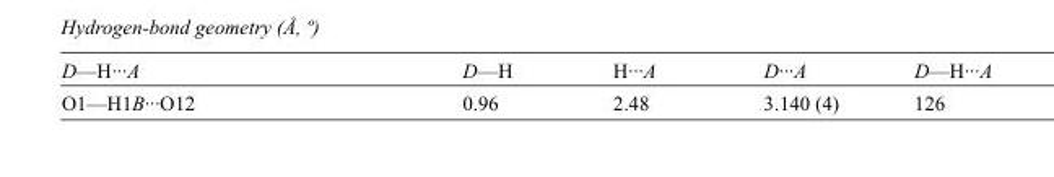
<table><tbody><tr><td>D—H···A</td><td>D—H</td><td>H···A</td><td>D···A</td><td>D—H···A</td></tr><tr><td>O1—H1B···O12</td><td>0.96</td><td>2.48</td><td>3.140 (4)</td><td>126</td></tr></tbody></table>